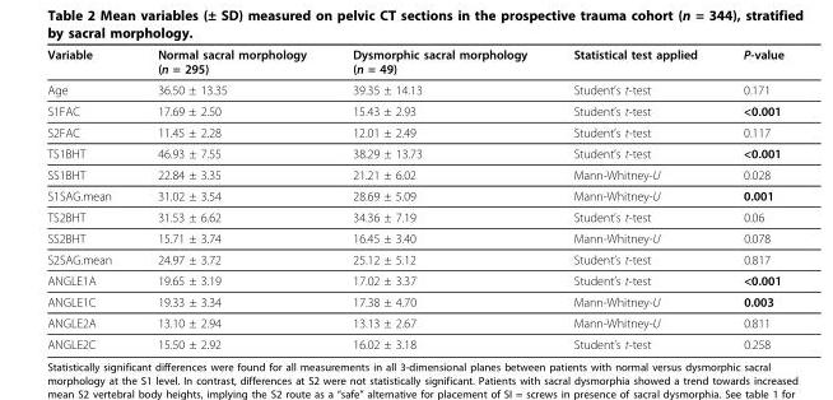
<table><thead><tr><td>Variable</td><td>Normal sacral morphology (n = 295)</td><td>Dysmorphic sacral morphology (n = 49)</td><td>Statistical test applied</td><td>P-value</td></tr></thead><tbody><tr><td>Age</td><td>36.50 ± 13.35</td><td>39.35 ± 14.13</td><td>Student’s t-test</td><td>0.171</td></tr><tr><td>S1FAC</td><td>17.69 ± 2.50</td><td>15.43 ± 2.93</td><td>Student’s t-test</td><td>&lt;0.001</td></tr><tr><td>S2FAC</td><td>11.45 ± 2.28</td><td>12.01 ± 2.49</td><td>Student’s t-test</td><td>0.117</td></tr><tr><td>TS1BHT</td><td>46.93 ± 7.55</td><td>38.29 ± 13.73</td><td>Student’s t-test</td><td>&lt;0.001</td></tr><tr><td>SS1BHT</td><td>22.84 ± 3.35</td><td>21.21 ± 6.02</td><td>Mann-Whitney-U</td><td>0.028</td></tr><tr><td>S1SAG.mean</td><td>31.02 ± 3.54</td><td>28.69 ± 5.09</td><td>Mann-Whitney-U</td><td>0.001</td></tr><tr><td>TS2BHT</td><td>31.53 ± 6.62</td><td>34.36 ± 7.19</td><td>Student’s t-test</td><td>0.06</td></tr><tr><td>SS2BHT</td><td>15.71 ± 3.74</td><td>16.45 ± 3.40</td><td>Mann-Whitney-U</td><td>0.078</td></tr><tr><td>S2SAG.mean</td><td>24.97 ± 3.72</td><td>25.12 ± 5.12</td><td>Student’s t-test</td><td>0.817</td></tr><tr><td>ANGLE1A</td><td>19.65 ± 3.19</td><td>17.02 ± 3.37</td><td>Student’s t-test</td><td>&lt;0.001</td></tr><tr><td>ANGLE1C</td><td>19.33 ± 3.34</td><td>17.38 ± 4.70</td><td>Mann-Whitney-U</td><td>0.003</td></tr><tr><td>ANGLE2A</td><td>13.10 ± 2.94</td><td>13.13 ± 2.67</td><td>Mann-Whitney-U</td><td>0.811</td></tr><tr><td>ANGLE2C</td><td>15.50 ± 2.92</td><td>16.02 ± 3.18</td><td>Student’s t-test</td><td>0.258</td></tr></tbody></table>